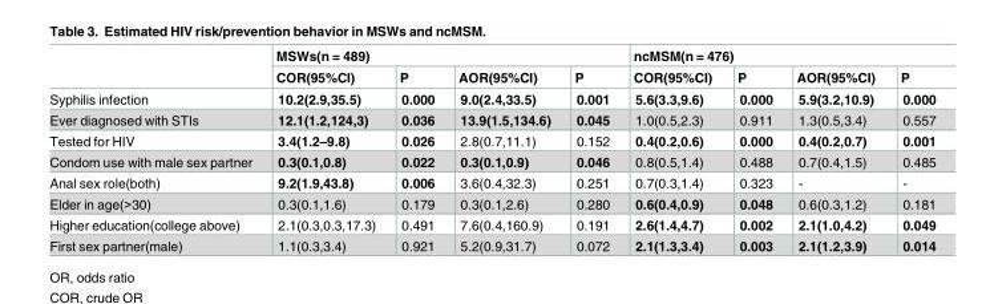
<table><thead><tr><td rowspan="2"></td><td colspan="4">MSWs(n = 489)</td><td colspan="4">ncMSM(n = 476)</td></tr><tr><td>COR(95%CI)</td><td>P</td><td>AOR(95%CI)</td><td>P</td><td>COR(95%CI)</td><td>P</td><td>AOR(95%CI)</td><td>P</td></tr></thead><tbody><tr><td>Syphilis infection</td><td>10.2(2.9,35.5)</td><td>0.000</td><td>9.0(2.4,33.5)</td><td>0.001</td><td>5.6(3.3,9.6)</td><td>0.000</td><td>5.9(3.2,10.9)</td><td>0.000</td></tr><tr><td>Ever diagnosed with STIs</td><td>12.1(1.2,124,3)</td><td>0.036</td><td>13.9(1.5,134.6)</td><td>0.045</td><td>1.0(0.5,2.3)</td><td>0.911</td><td>1.3(0.5,3.4)</td><td>0.557</td></tr><tr><td>Tested for HIV</td><td>3.4(1.2–9.8)</td><td>0.026</td><td>2.8(0.7,11.1)</td><td>0.152</td><td>0.4(0.2,0.6)</td><td>0.000</td><td>0.4(0.2,0.7)</td><td>0.001</td></tr><tr><td>Condom use with male sex partner</td><td>0.3(0.1,0.8)</td><td>0.022</td><td>0.3(0.1,0.9)</td><td>0.046</td><td>0.8(0.5,1.4)</td><td>0.488</td><td>0.7(0.4,1.5)</td><td>0.485</td></tr><tr><td>Anal sex role(both)</td><td>9.2(1.9,43.8)</td><td>0.006</td><td>3.6(0.4,32.3)</td><td>0.251</td><td>0.7(0.3,1.4)</td><td>0.323</td><td>-</td><td>-</td></tr><tr><td>Elder in age(&gt;30)</td><td>0.3(0.1,1.6)</td><td>0.179</td><td>0.3(0.1,2.6)</td><td>0.280</td><td>0.6(0.4,0.9)</td><td>0.048</td><td>0.6(0.3,1.2)</td><td>0.181</td></tr><tr><td>Higher education(college above)</td><td>2.1(0.3,0.3,17.3)</td><td>0.491</td><td>7.6(0.4,160.9)</td><td>0.191</td><td>2.6(1.4,4.7)</td><td>0.002</td><td>2.1(1.0,4.2)</td><td>0.049</td></tr><tr><td>First sex partner(male)</td><td>1.1(0.3,3.4)</td><td>0.921</td><td>5.2(0.9,31.7)</td><td>0.072</td><td>2.1(1.3,3.4)</td><td>0.003</td><td>2.1(1.2,3.9)</td><td>0.014</td></tr></tbody></table>